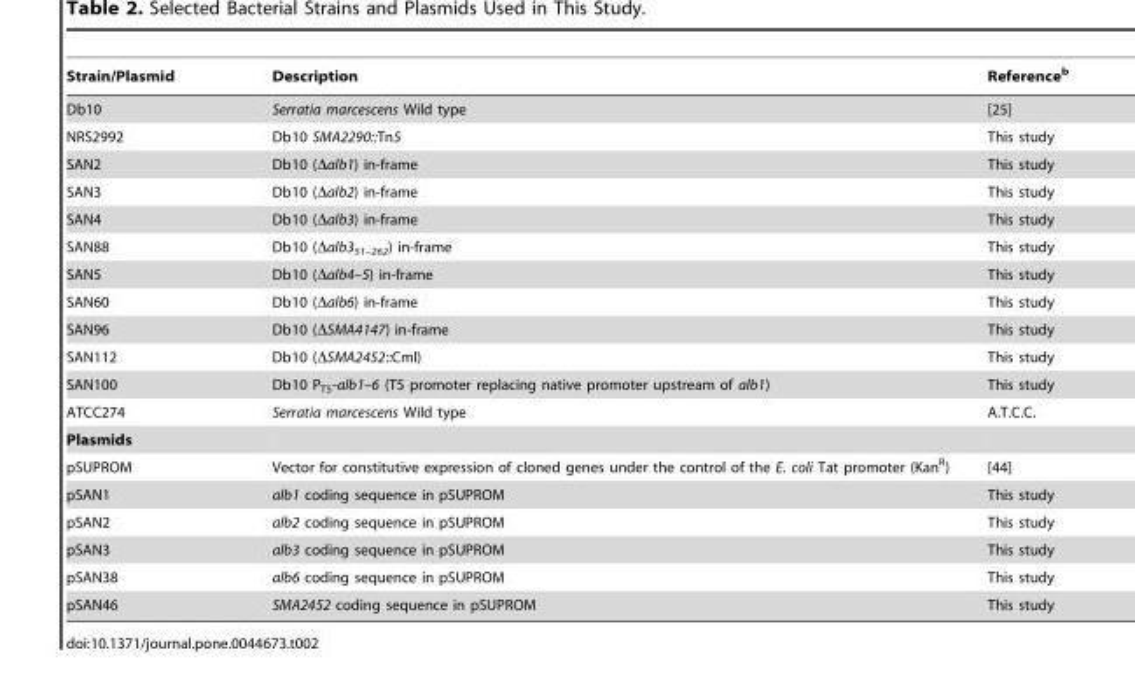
<table><thead><tr><td>Strain/Plasmid</td><td>Description</td><td>Reference<sup>b</sup></td></tr></thead><tbody><tr><td>Db10</td><td>Serratia marcescens Wild type</td><td>[25]</td></tr><tr><td>NRS2992</td><td>Db10 SMA2290::Tn5</td><td>This study</td></tr><tr><td>SAN2</td><td>Db10 (Δalb1) in-frame</td><td>This study</td></tr><tr><td>SAN3</td><td>Db10 (Δalb2) in-frame</td><td>This study</td></tr><tr><td>SAN4</td><td>Db10 (Δalb3) in-frame</td><td>This study</td></tr><tr><td>SAN88</td><td>Db10 (Δalb3<sub>51–262</sub>) in-frame</td><td>This study</td></tr><tr><td>SAN5</td><td>Db10 (Δalb4–5) in-frame</td><td>This study</td></tr><tr><td>SAN60</td><td>Db10 (Δalb6) in-frame</td><td>This study</td></tr><tr><td>SAN96</td><td>Db10 (ΔSMA4147) in-frame</td><td>This study</td></tr><tr><td>SAN112</td><td>Db10 (ΔSMA2452::Cml)</td><td>This study</td></tr><tr><td>SAN100</td><td>Db10 P<sub>T5</sub>-alb1–6 (T5 promoter replacing native promoter upstream of alb1)</td><td>This study</td></tr><tr><td>ATCC274</td><td>Serratia marcescens Wild type</td><td>A.T.C.C.</td></tr><tr><td colspan="3">Plasmids</td></tr><tr><td>pSUPROM</td><td>Vector for constitutive expression of cloned genes under the control of the E. coli Tat promoter (Kan<sup>R</sup>)</td><td>[44]</td></tr><tr><td>pSAN1</td><td>alb1 coding sequence in pSUPROM</td><td>This study</td></tr><tr><td>pSAN2</td><td>alb2 coding sequence in pSUPROM</td><td>This study</td></tr><tr><td>pSAN3</td><td>alb3 coding sequence in pSUPROM</td><td>This study</td></tr><tr><td>pSAN38</td><td>alb6 coding sequence in pSUPROM</td><td>This study</td></tr><tr><td>pSAN46</td><td>SMA2452 coding sequence in pSUPROM</td><td>This study</td></tr></tbody></table>